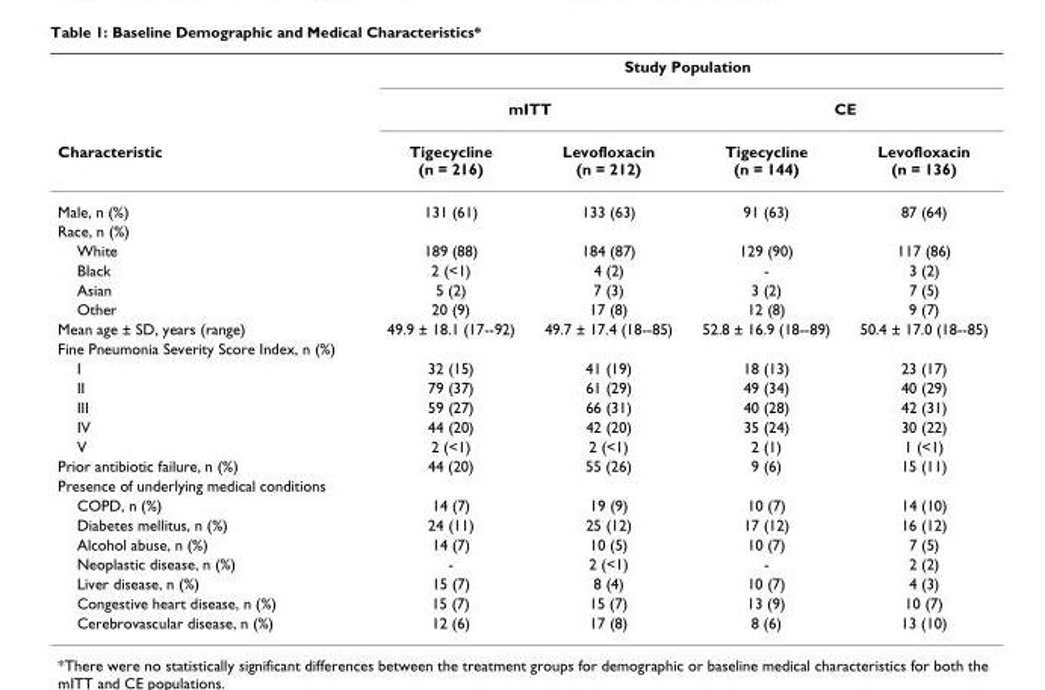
<table><thead><tr><td rowspan="3">Characteristic</td><td colspan="4">Study Population</td></tr><tr><td colspan="2">mITT</td><td colspan="2">CE</td></tr><tr><td>Tigecycline (n = 216)</td><td>Levofloxacin (n = 212)</td><td>Tigecycline (n = 144)</td><td>Levofloxacin (n = 136)</td></tr></thead><tbody><tr><td>Male, n (%)</td><td>131 (61)</td><td>133 (63)</td><td>91 (63)</td><td>87 (64)</td></tr><tr><td colspan="5">Race, n (%)</td></tr><tr><td>White</td><td>189 (88)</td><td>184 (87)</td><td>129 (90)</td><td>117 (86)</td></tr><tr><td>Black</td><td>2 (&lt;1)</td><td>4 (2)</td><td>-</td><td>3 (2)</td></tr><tr><td>Asian</td><td>5 (2)</td><td>7 (3)</td><td>3 (2)</td><td>7 (5)</td></tr><tr><td>Other</td><td>20 (9)</td><td>17 (8)</td><td>12 (8)</td><td>9 (7)</td></tr><tr><td>Mean age ± SD, years (range)</td><td>49.9 ± 18.1 (17--92)</td><td>49.7 ± 17.4 (18--85)</td><td>52.8 ± 16.9 (18--89)</td><td>50.4 ± 17.0 (18--85)</td></tr><tr><td colspan="5">Fine Pneumonia Severity Score Index, n (%)</td></tr><tr><td>I</td><td>32 (15)</td><td>41 (19)</td><td>18 (13)</td><td>23 (17)</td></tr><tr><td>II</td><td>79 (37)</td><td>61 (29)</td><td>49 (34)</td><td>40 (29)</td></tr><tr><td>III</td><td>59 (27)</td><td>66 (31)</td><td>40 (28)</td><td>42 (31)</td></tr><tr><td>IV</td><td>44 (20)</td><td>42 (20)</td><td>35 (24)</td><td>30 (22)</td></tr><tr><td>V</td><td>2 (&lt;1)</td><td>2 (&lt;1)</td><td>2 (1)</td><td>1 (&lt;1)</td></tr><tr><td>Prior antibiotic failure, n (%)</td><td>44 (20)</td><td>55 (26)</td><td>9 (6)</td><td>15 (11)</td></tr><tr><td colspan="5">Presence of underlying medical conditions</td></tr><tr><td>COPD, n (%)</td><td>14 (7)</td><td>19 (9)</td><td>10 (7)</td><td>14 (10)</td></tr><tr><td>Diabetes mellitus, n (%)</td><td>24 (11)</td><td>25 (12)</td><td>17 (12)</td><td>16 (12)</td></tr><tr><td>Alcohol abuse, n (%)</td><td>14 (7)</td><td>10 (5)</td><td>10 (7)</td><td>7 (5)</td></tr><tr><td>Neoplastic disease, n (%)</td><td>-</td><td>2 (&lt;1)</td><td>-</td><td>2 (2)</td></tr><tr><td>Liver disease, n (%)</td><td>15 (7)</td><td>8 (4)</td><td>10 (7)</td><td>4 (3)</td></tr><tr><td>Congestive heart disease, n (%)</td><td>15 (7)</td><td>15 (7)</td><td>13 (9)</td><td>10 (7)</td></tr><tr><td>Cerebrovascular disease, n (%)</td><td>12 (6)</td><td>17 (8)</td><td>8 (6)</td><td>13 (10)</td></tr></tbody></table>